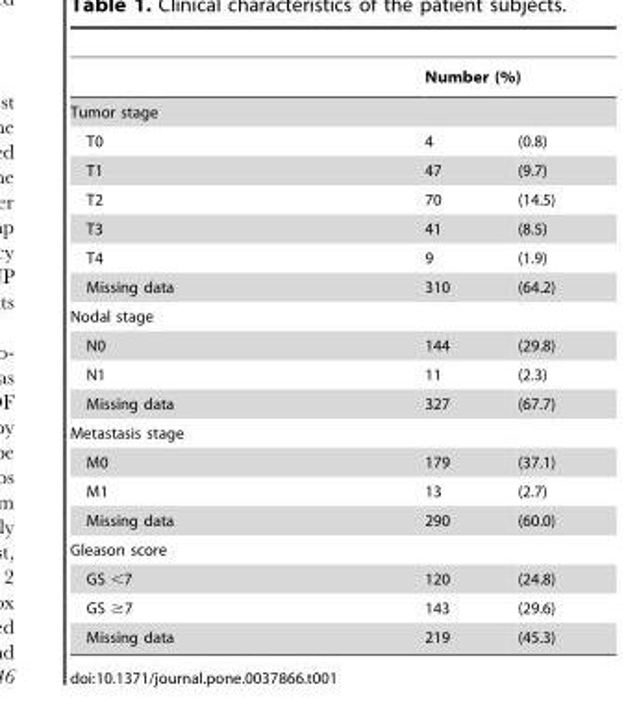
<table><thead><tr><td></td><td colspan="2">Number (%)</td></tr><tr><td colspan="3">Tumor stage</td></tr><tr><td>T0</td><td>4</td><td>(0.8)</td></tr></thead><tbody><tr><td>T1</td><td>47</td><td>(9.7)</td></tr><tr><td>T2</td><td>70</td><td>(14.5)</td></tr><tr><td>T3</td><td>41</td><td>(8.5)</td></tr><tr><td>T4</td><td>9</td><td>(1.9)</td></tr><tr><td>Missing data</td><td>310</td><td>(64.2)</td></tr><tr><td colspan="3">Nodal stage</td></tr><tr><td>N0</td><td>144</td><td>(29.8)</td></tr><tr><td>N1</td><td>11</td><td>(2.3)</td></tr><tr><td>Missing data</td><td>327</td><td>(67.7)</td></tr><tr><td colspan="3">Metastasis stage</td></tr><tr><td>M0</td><td>179</td><td>(37.1)</td></tr><tr><td>M1</td><td>13</td><td>(2.7)</td></tr><tr><td>Missing data</td><td>290</td><td>(60.0)</td></tr><tr><td colspan="3">Gleason score</td></tr><tr><td>GS &lt;7</td><td>120</td><td>(24.8)</td></tr><tr><td>GS ≥7</td><td>143</td><td>(29.6)</td></tr><tr><td>Missing data</td><td>219</td><td>(45.3)</td></tr></tbody></table>